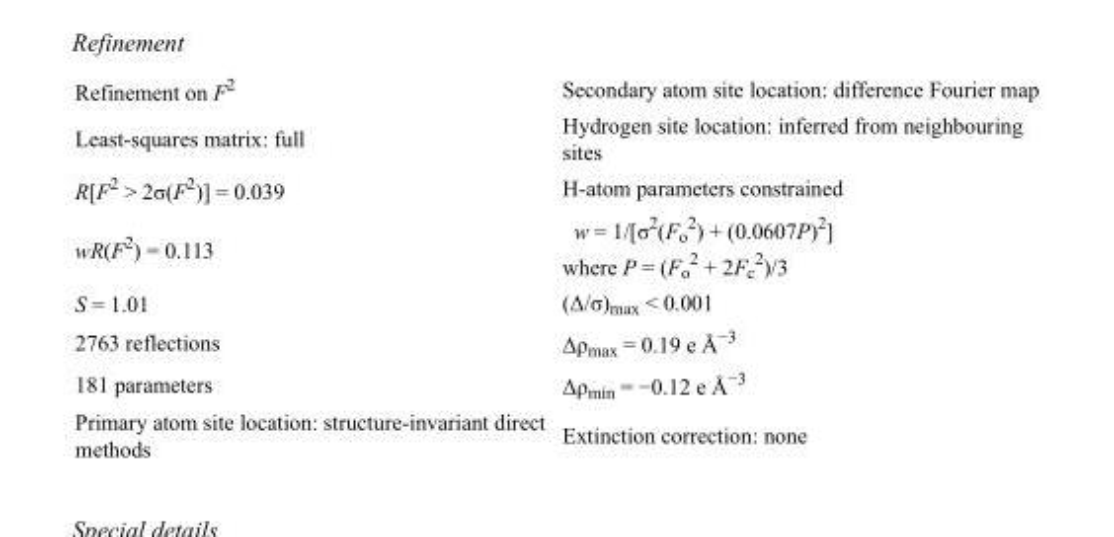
<table><tbody><tr><td>Refinement on F<sup>2</sup></td><td>Secondary atom site location: difference Fourier map</td></tr><tr><td>Least-squares matrix: full</td><td>Hydrogen site location: inferred from neighbouring sites</td></tr><tr><td>R[F<sup>2</sup> &gt; 2σ(F<sup>2</sup>)] = 0.039</td><td>H-atom parameters constrained</td></tr><tr><td>wR(F<sup>2</sup>) = 0.113</td><td>w = 1/[σ<sup>2</sup>(F<sub>o</sub> <sup>2</sup>) + (0.0607P)<sup>2</sup>] where P = (F<sub>o</sub> <sup>2</sup> + 2F<sub>c</sub> <sup>2</sup>)/3</td></tr><tr><td>S = 1.01</td><td>(Δ/σ)<sub>max</sub> &lt; 0.001</td></tr><tr><td>2763 reflections</td><td>Δρ<sub>max</sub> = 0.19 e Å<sup>−3</sup></td></tr><tr><td>181 parameters</td><td>Δρ<sub>min</sub> = −0.12 e Å<sup>−3</sup></td></tr><tr><td>Primary atom site location: structure-invariant direct methods</td><td>Extinction correction: none</td></tr></tbody></table>